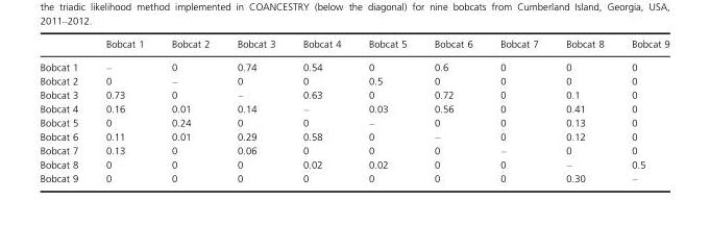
<table><thead><tr><td></td><td>Bobcat 1</td><td>Bobcat 2</td><td>Bobcat 3</td><td>Bobcat 4</td><td>Bobcat 5</td><td>Bobcat 6</td><td>Bobcat 7</td><td>Bobcat 8</td><td>Bobcat 9</td></tr></thead><tbody><tr><td>Bobcat 1</td><td>–</td><td>0</td><td>0.74</td><td>0.54</td><td>0</td><td>0.6</td><td>0</td><td>0</td><td>0</td></tr><tr><td>Bobcat 2</td><td>0</td><td>–</td><td>0</td><td>0</td><td>0.5</td><td>0</td><td>0</td><td>0</td><td>0</td></tr><tr><td>Bobcat 3</td><td>0.73</td><td>0</td><td>–</td><td>0.63</td><td>0</td><td>0.72</td><td>0</td><td>0.1</td><td>0</td></tr><tr><td>Bobcat 4</td><td>0.16</td><td>0.01</td><td>0.14</td><td>–</td><td>0.03</td><td>0.56</td><td>0</td><td>0.41</td><td>0</td></tr><tr><td>Bobcat 5</td><td>0</td><td>0.24</td><td>0</td><td>0</td><td>–</td><td>0</td><td>0</td><td>0.13</td><td>0</td></tr><tr><td>Bobcat 6</td><td>0.11</td><td>0.01</td><td>0.29</td><td>0.58</td><td>0</td><td>–</td><td>0</td><td>0.12</td><td>0</td></tr><tr><td>Bobcat 7</td><td>0.13</td><td>0</td><td>0.06</td><td>0</td><td>0</td><td>0</td><td>–</td><td>0</td><td>0</td></tr><tr><td>Bobcat 8</td><td>0</td><td>0</td><td>0</td><td>0.02</td><td>0.02</td><td>0</td><td>0</td><td>–</td><td>0.5</td></tr><tr><td>Bobcat 9</td><td>0</td><td>0</td><td>0</td><td>0</td><td>0</td><td>0</td><td>0</td><td>0.30</td><td>–</td></tr></tbody></table>